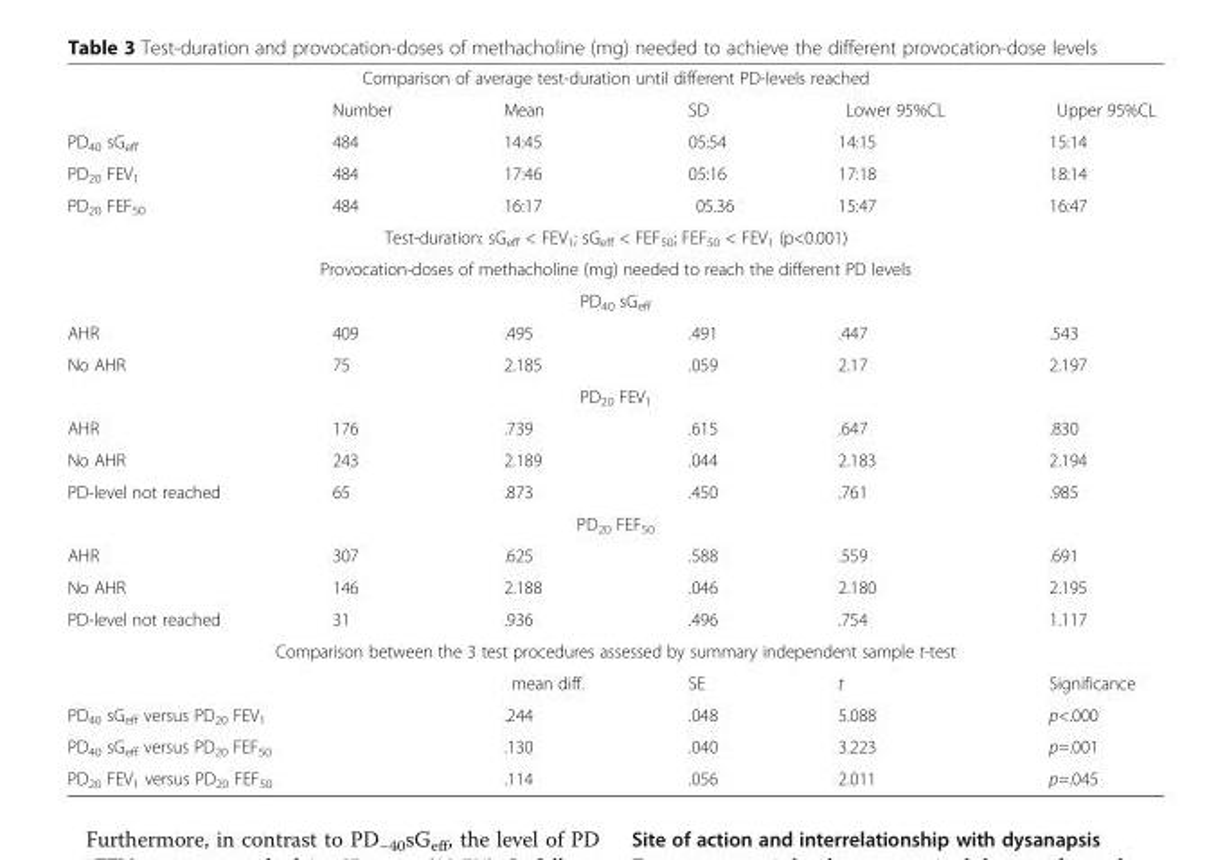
<table><tbody><tr><td colspan="6">Comparison of average test-duration until different PD-levels reached</td></tr><tr><td></td><td>Number</td><td>Mean</td><td>SD</td><td>Lower 95%CL</td><td>Upper 95%CL</td></tr><tr><td>PD<sub>40</sub> sG<sub>eff</sub></td><td>484</td><td>14:45</td><td>05:54</td><td>14:15</td><td>15:14</td></tr><tr><td>PD<sub>20</sub> FEV<sub>1</sub></td><td>484</td><td>17:46</td><td>05:16</td><td>17:18</td><td>18:14</td></tr><tr><td>PD<sub>20</sub> FEF<sub>50</sub></td><td>484</td><td>16:17</td><td>05.36</td><td>15:47</td><td>16:47</td></tr><tr><td colspan="6">Test-duration: sG<sub>eff</sub> &lt; FEV<sub>1</sub>; sG<sub>eff</sub> &lt; FEF<sub>50</sub>; FEF<sub>50</sub> &lt; FEV<sub>1</sub> (p&lt;0.001)</td></tr><tr><td colspan="6">Provocation-doses of methacholine (mg) needed to reach the different PD levels</td></tr><tr><td colspan="6">PD<sub>40</sub> sG<sub>eff</sub></td></tr><tr><td>AHR</td><td>409</td><td>.495</td><td>.491</td><td>.447</td><td>.543</td></tr><tr><td>No AHR</td><td>75</td><td>2.185</td><td>.059</td><td>2.17</td><td>2.197</td></tr><tr><td colspan="6">PD<sub>20</sub> FEV<sub>1</sub></td></tr><tr><td>AHR</td><td>176</td><td>.739</td><td>.615</td><td>.647</td><td>.830</td></tr><tr><td>No AHR</td><td>243</td><td>2.189</td><td>.044</td><td>2.183</td><td>2.194</td></tr><tr><td>PD-level not reached</td><td>65</td><td>.873</td><td>.450</td><td>.761</td><td>.985</td></tr><tr><td colspan="6">PD<sub>20</sub> FEF<sub>50</sub></td></tr><tr><td>AHR</td><td>307</td><td>.625</td><td>.588</td><td>.559</td><td>.691</td></tr><tr><td>No AHR</td><td>146</td><td>2.188</td><td>.046</td><td>2.180</td><td>2.195</td></tr><tr><td>PD-level not reached</td><td>31</td><td>.936</td><td>.496</td><td>.754</td><td>1.117</td></tr><tr><td colspan="6">Comparison between the 3 test procedures assessed by summary independent sample t-test</td></tr><tr><td colspan="2"></td><td>mean diff.</td><td>SE</td><td>t</td><td>Significance</td></tr><tr><td colspan="2">PD<sub>40</sub> sG<sub>eff</sub> versus PD<sub>20</sub> FEV<sub>1</sub></td><td>.244</td><td>.048</td><td>5.088</td><td>p&lt;.000</td></tr><tr><td colspan="2">PD<sub>40</sub> sG<sub>eff</sub> versus PD<sub>20</sub> FEF<sub>50</sub></td><td>.130</td><td>.040</td><td>3.223</td><td>p=.001</td></tr><tr><td colspan="2">PD<sub>20</sub> FEV<sub>1</sub> versus PD<sub>20</sub> FEF<sub>50</sub></td><td>.114</td><td>.056</td><td>2.011</td><td>p=.045</td></tr></tbody></table>